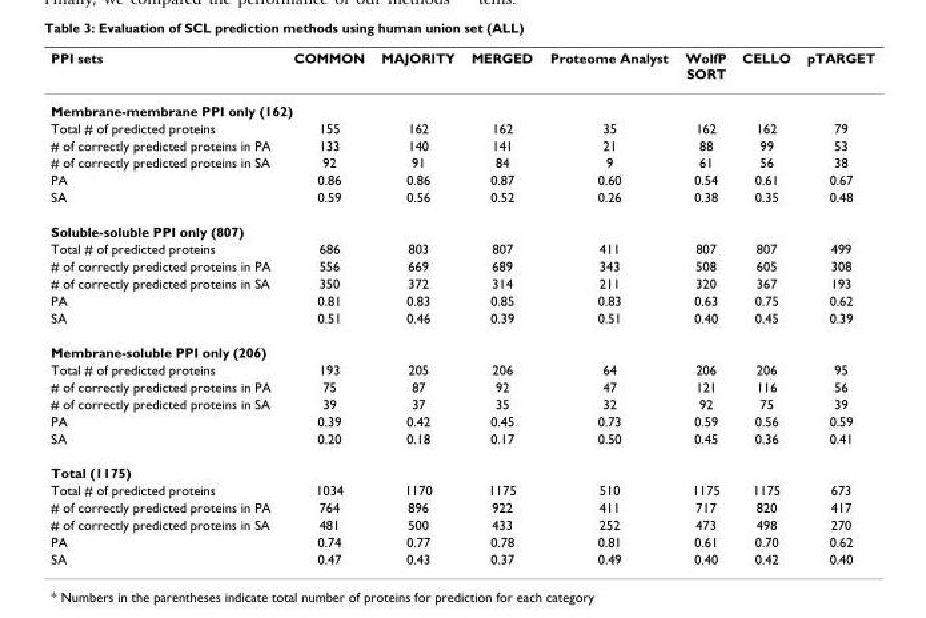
<table><thead><tr><td>PPI sets</td><td>COMMON</td><td>MAJORITY</td><td>MERGED</td><td>Proteome Analyst</td><td>WolfP SORT</td><td>CELLO</td><td>pTARGET</td></tr></thead><tbody><tr><td colspan="8">Membrane-membrane PPI only (162)</td></tr><tr><td>Total # of predicted proteins</td><td>155</td><td>162</td><td>162</td><td>35</td><td>162</td><td>162</td><td>79</td></tr><tr><td># of correctly predicted proteins in PA</td><td>133</td><td>140</td><td>141</td><td>21</td><td>88</td><td>99</td><td>53</td></tr><tr><td># of correctly predicted proteins in SA</td><td>92</td><td>91</td><td>84</td><td>9</td><td>61</td><td>56</td><td>38</td></tr><tr><td>PA</td><td>0.86</td><td>0.86</td><td>0.87</td><td>0.60</td><td>0.54</td><td>0.61</td><td>0.67</td></tr><tr><td>SA</td><td>0.59</td><td>0.56</td><td>0.52</td><td>0.26</td><td>0.38</td><td>0.35</td><td>0.48</td></tr><tr><td colspan="8">Soluble-soluble PPI only (807)</td></tr><tr><td>Total # of predicted proteins</td><td>686</td><td>803</td><td>807</td><td>411</td><td>807</td><td>807</td><td>499</td></tr><tr><td># of correctly predicted proteins in PA</td><td>556</td><td>669</td><td>689</td><td>343</td><td>508</td><td>605</td><td>308</td></tr><tr><td># of correctly predicted proteins in SA</td><td>350</td><td>372</td><td>314</td><td>211</td><td>320</td><td>367</td><td>193</td></tr><tr><td>PA</td><td>0.81</td><td>0.83</td><td>0.85</td><td>0.83</td><td>0.63</td><td>0.75</td><td>0.62</td></tr><tr><td>SA</td><td>0.51</td><td>0.46</td><td>0.39</td><td>0.51</td><td>0.40</td><td>0.45</td><td>0.39</td></tr><tr><td colspan="8">Membrane-soluble PPI only (206)</td></tr><tr><td>Total # of predicted proteins</td><td>193</td><td>205</td><td>206</td><td>64</td><td>206</td><td>206</td><td>95</td></tr><tr><td># of correctly predicted proteins in PA</td><td>75</td><td>87</td><td>92</td><td>47</td><td>121</td><td>116</td><td>56</td></tr><tr><td># of correctly predicted proteins in SA</td><td>39</td><td>37</td><td>35</td><td>32</td><td>92</td><td>75</td><td>39</td></tr><tr><td>PA</td><td>0.39</td><td>0.42</td><td>0.45</td><td>0.73</td><td>0.59</td><td>0.56</td><td>0.59</td></tr><tr><td>SA</td><td>0.20</td><td>0.18</td><td>0.17</td><td>0.50</td><td>0.45</td><td>0.36</td><td>0.41</td></tr><tr><td colspan="8">Total (1175)</td></tr><tr><td>Total # of predicted proteins</td><td>1034</td><td>1170</td><td>1175</td><td>510</td><td>1175</td><td>1175</td><td>673</td></tr><tr><td># of correctly predicted proteins in PA</td><td>764</td><td>896</td><td>922</td><td>411</td><td>717</td><td>820</td><td>417</td></tr><tr><td># of correctly predicted proteins in SA</td><td>481</td><td>500</td><td>433</td><td>252</td><td>473</td><td>498</td><td>270</td></tr><tr><td>PA</td><td>0.74</td><td>0.77</td><td>0.78</td><td>0.81</td><td>0.61</td><td>0.70</td><td>0.62</td></tr><tr><td>SA</td><td>0.47</td><td>0.43</td><td>0.37</td><td>0.49</td><td>0.40</td><td>0.42</td><td>0.40</td></tr></tbody></table>